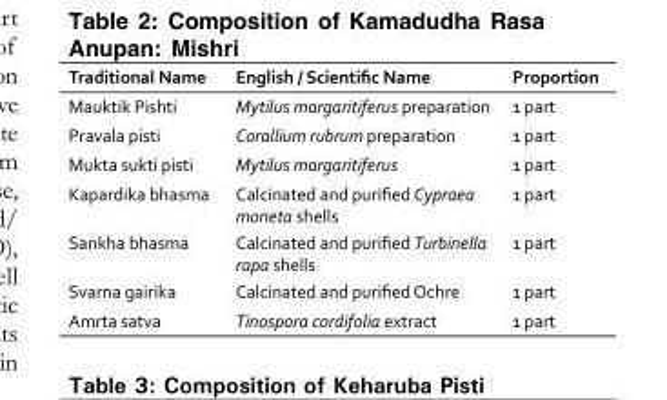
<table><thead><tr><td>Traditional Name</td><td>English / Scientific Name</td><td>Proportion</td></tr></thead><tbody><tr><td>Mauktik Pishti</td><td>Mytilus margaritiferus preparation</td><td>1 part</td></tr><tr><td>Pravala pisti</td><td>Corallium rubrum preparation</td><td>1 part</td></tr><tr><td>Mukta sukti pisti</td><td>Mytilus margaritiferus</td><td>1 part</td></tr><tr><td>Kapardika bhasma</td><td>Calcinated and purified Cypraea moneta shells</td><td>1 part</td></tr><tr><td>Sankha bhasma</td><td>Calcinated and purified Turbinella rapa shells</td><td>1 part</td></tr><tr><td>Svarna gairika</td><td>Calcinated and purified Ochre</td><td>1 part</td></tr><tr><td>Amrta satva</td><td>Tinospora cordifolia extract</td><td>1 part</td></tr></tbody></table>